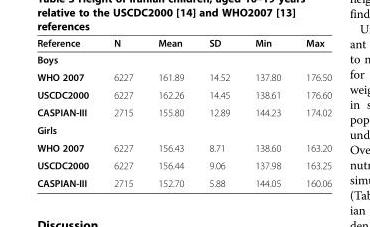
<table><thead><tr><td>Reference</td><td>N</td><td>Mean</td><td>SD</td><td>Min</td><td>Max</td></tr></thead><tbody><tr><td colspan="6">Boys</td></tr><tr><td>WHO 2007</td><td>6227</td><td>161.89</td><td>14.52</td><td>137.80</td><td>176.50</td></tr><tr><td>USCDC2000</td><td>6227</td><td>162.26</td><td>14.45</td><td>138.61</td><td>176.60</td></tr><tr><td>CASPIAN-III</td><td>2715</td><td>155.80</td><td>12.89</td><td>144.23</td><td>174.02</td></tr><tr><td colspan="6">Girls</td></tr><tr><td>WHO 2007</td><td>6227</td><td>156.43</td><td>8.71</td><td>138.60</td><td>163.20</td></tr><tr><td>USCDC2000</td><td>6227</td><td>156.44</td><td>9.06</td><td>137.98</td><td>163.25</td></tr><tr><td>CASPIAN-III</td><td>2715</td><td>152.70</td><td>5.88</td><td>144.05</td><td>160.06</td></tr></tbody></table>